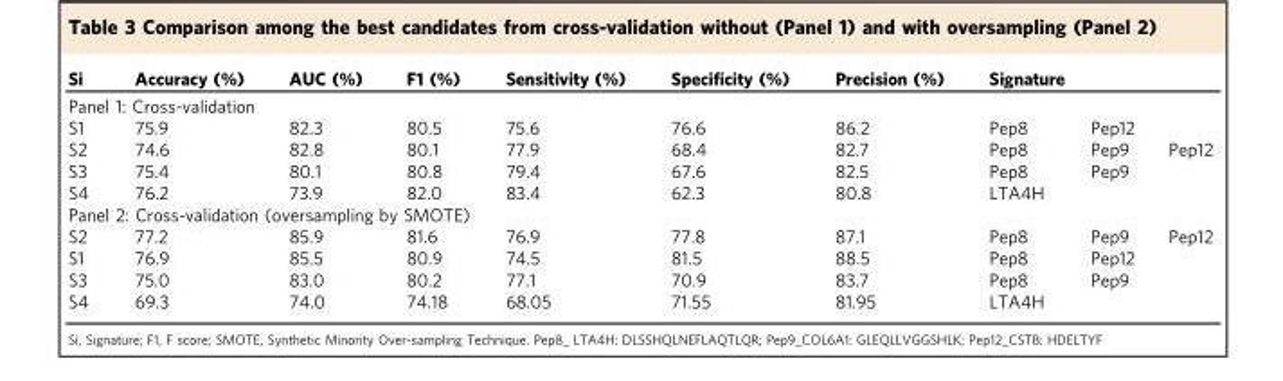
<table><thead><tr><td>Si</td><td>Accuracy (%)</td><td>AUC (%)</td><td>F1 (%)</td><td>Sensitivity (%)</td><td>Specificity (%)</td><td>Precision (%)</td><td colspan="3">Signature</td></tr><tr><td colspan="10">Panel 1: Cross-validation</td></tr><tr><td>S1</td><td>75.9</td><td>82.3</td><td>80.5</td><td>75.6</td><td>76.6</td><td>86.2</td><td>Pep8</td><td>Pep12</td><td></td></tr></thead><tbody><tr><td>S2</td><td>74.6</td><td>82.8</td><td>80.1</td><td>77.9</td><td>68.4</td><td>82.7</td><td>Pep8</td><td>Pep9</td><td>Pep12</td></tr><tr><td>S3</td><td>75.4</td><td>80.1</td><td>80.8</td><td>79.4</td><td>67.6</td><td>82.5</td><td>Pep8</td><td>Pep9</td><td></td></tr><tr><td>S4</td><td>76.2</td><td>73.9</td><td>82.0</td><td>83.4</td><td>62.3</td><td>80.8</td><td>LTA4H</td><td></td><td></td></tr><tr><td colspan="10">Panel 2: Cross-validation (oversampling by SMOTE)</td></tr><tr><td>S2</td><td>77.2</td><td>85.9</td><td>81.6</td><td>76.9</td><td>77.8</td><td>87.1</td><td>Pep8</td><td>Pep9</td><td>Pep12</td></tr><tr><td>S1</td><td>76.9</td><td>85.5</td><td>80.9</td><td>74.5</td><td>81.5</td><td>88.5</td><td>Pep8</td><td>Pep12</td><td></td></tr><tr><td>S3</td><td>75.0</td><td>83.0</td><td>80.2</td><td>77.1</td><td>70.9</td><td>83.7</td><td>Pep8</td><td>Pep9</td><td></td></tr><tr><td>S4</td><td>69.3</td><td>74.0</td><td>74.18</td><td>68.05</td><td>71.55</td><td>81.95</td><td>LTA4H</td><td></td><td></td></tr></tbody></table>